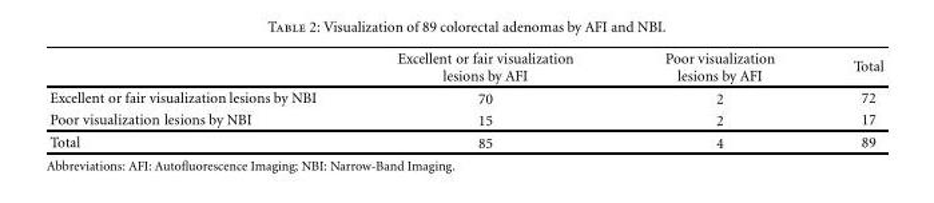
<table><thead><tr><td></td><td>Excellent or fair visualization lesions by AFI</td><td>Poor visualization lesions by AFI</td><td>Total</td></tr></thead><tbody><tr><td>Excellent or fair visualization lesions by NBI</td><td>70</td><td>2</td><td>72</td></tr><tr><td>Poor visualization lesions by NBI</td><td>15</td><td>2</td><td>17</td></tr><tr><td>Total</td><td>85</td><td>4</td><td>89</td></tr></tbody></table>